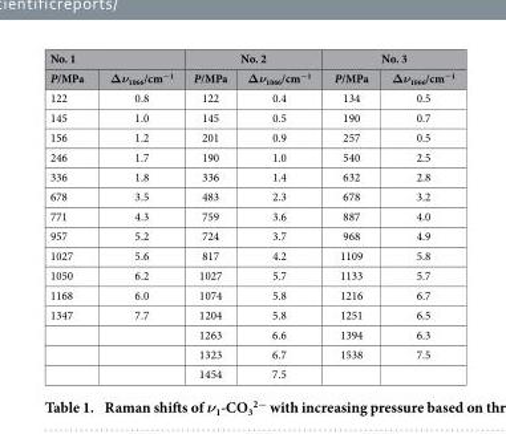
<table><thead><tr><td colspan="2">No. 1</td><td colspan="2">No. 2</td><td colspan="2">No. 3</td></tr><tr><td>P/MPa</td><td>Δν<sub>1066</sub>/cm<sup>−1</sup></td><td>P/MPa</td><td>Δν<sub>1066</sub>/cm<sup>−1</sup></td><td>P/MPa</td><td>Δν<sub>1066</sub>/cm<sup>−1</sup></td></tr></thead><tbody><tr><td>122</td><td>0.8</td><td>122</td><td>0.4</td><td>134</td><td>0.5</td></tr><tr><td>145</td><td>1.0</td><td>145</td><td>0.5</td><td>190</td><td>0.7</td></tr><tr><td>156</td><td>1.2</td><td>201</td><td>0.9</td><td>257</td><td>0.5</td></tr><tr><td>246</td><td>1.7</td><td>190</td><td>1.0</td><td>540</td><td>2.5</td></tr><tr><td>336</td><td>1.8</td><td>336</td><td>1.4</td><td>632</td><td>2.8</td></tr><tr><td>678</td><td>3.5</td><td>483</td><td>2.3</td><td>678</td><td>3.2</td></tr><tr><td>771</td><td>4.3</td><td>759</td><td>3.6</td><td>887</td><td>4.0</td></tr><tr><td>957</td><td>5.2</td><td>724</td><td>3.7</td><td>968</td><td>4.9</td></tr><tr><td>1027</td><td>5.6</td><td>817</td><td>4.2</td><td>1109</td><td>5.8</td></tr><tr><td>1050</td><td>6.2</td><td>1027</td><td>5.7</td><td>1133</td><td>5.7</td></tr><tr><td>1168</td><td>6.0</td><td>1074</td><td>5.8</td><td>1216</td><td>6.7</td></tr><tr><td rowspan="4">1347</td><td>7.7</td><td>1204</td><td>5.8</td><td>1251</td><td>6.5</td></tr><tr><td></td><td>1263</td><td>6.6</td><td>1394</td><td>6.3</td></tr><tr><td></td><td>1323</td><td>6.7</td><td>1538</td><td>7.5</td></tr><tr><td></td><td>1454</td><td>7.5</td><td></td><td></td></tr></tbody></table>